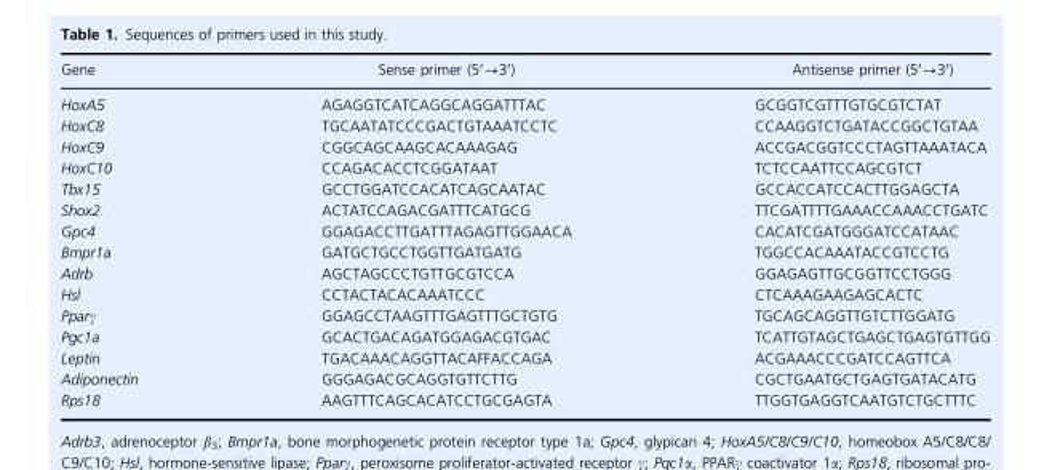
<table><thead><tr><td>Gene</td><td>Sense primer (5′→3′)</td><td>Antisense primer (5′→3′)</td></tr></thead><tbody><tr><td>HoxA5</td><td>AGAGGTCATCAGGCAGGATTTAC</td><td>GCGGTCGTTTGTGCGTCTAT</td></tr><tr><td>HoxC8</td><td>TGCAATATCCCGACTGTAAATCCTC</td><td>CCAAGGTCTGATACCGGCTGTAA</td></tr><tr><td>HoxC9</td><td>CGGCAGCAAGCACAAAGAG</td><td>ACCGACGGTCCCTAGTTAAATACA</td></tr><tr><td>HoxC10</td><td>CCAGACACCTCGGATAAT</td><td>TCTCCAATTCCAGCGTCT</td></tr><tr><td>Tbx15</td><td>GCCTGGATCCACATCAGCAATAC</td><td>GCCACCATCCACTTGGAGCTA</td></tr><tr><td>Shox2</td><td>ACTATCCAGACGATTTCATGCG</td><td>TTCGATTTTGAAACCAAACCTGATC</td></tr><tr><td>Gpc4</td><td>GGAGACCTTGATTTAGAGTTGGAACA</td><td>CACATCGATGGGATCCATAAC</td></tr><tr><td>Bmpr1a</td><td>GATGCTGCCTGGTTGATGATG</td><td>TGGCCACAAATACCGTCCTG</td></tr><tr><td>Adrb</td><td>AGCTAGCCCTGTTGCGTCCA</td><td>GGAGAGTTGCGGTTCCTGGG</td></tr><tr><td>Hsl</td><td>CCTACTACACAAATCCC</td><td>CTCAAAGAAGAGCACTC</td></tr><tr><td>Pparγ</td><td>GGAGCCTAAGTTTGAGTTTGCTGTG</td><td>TGCAGCAGGTTGTCTTGGATG</td></tr><tr><td>Pgc1a</td><td>GCACTGACAGATGGAGACGTGAC</td><td>TCATTGTAGCTGAGCTGAGTGTTGG</td></tr><tr><td>Leptin</td><td>TGACAAACAGGTTACAFFACCAGA</td><td>ACGAAACCCGATCCAGTTCA</td></tr><tr><td>Adiponectin</td><td>GGGAGACGCAGGTGTTCTTG</td><td>CGCTGAATGCTGAGTGATACATG</td></tr><tr><td>Rps18</td><td>AAGTTTCAGCACATCCTGCGAGTA</td><td>TTGGTGAGGTCAATGTCTGCTTTC</td></tr></tbody></table>